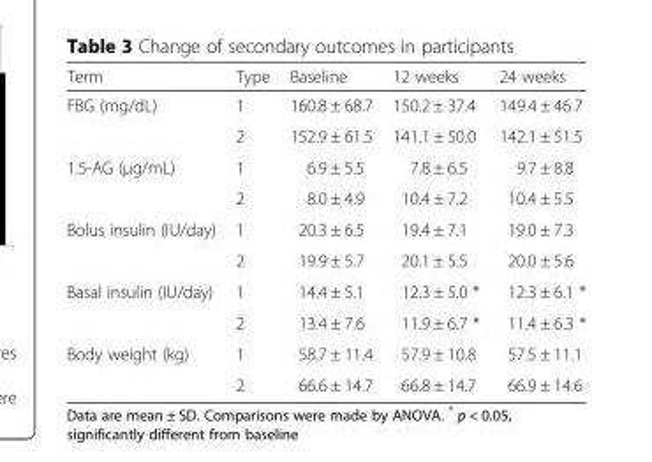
<table><thead><tr><td>Term</td><td>Type</td><td>Baseline</td><td>12 weeks</td><td>24 weeks</td></tr></thead><tbody><tr><td rowspan="2">FBG (mg/dL)</td><td>1</td><td>160.8 ± 68.7</td><td>150.2 ± 37.4</td><td>149.4 ± 46.7</td></tr><tr><td>2</td><td>152.9 ± 61.5</td><td>141.1 ± 50.0</td><td>142.1 ± 51.5</td></tr><tr><td rowspan="2">1.5-AG (μg/mL)</td><td>1</td><td>6.9 ± 5.5</td><td>7.8 ± 6.5</td><td>9.7 ± 8.8</td></tr><tr><td>2</td><td>8.0 ± 4.9</td><td>10.4 ± 7.2</td><td>10.4 ± 5.5</td></tr><tr><td rowspan="2">Bolus insulin (IU/day)</td><td>1</td><td>20.3 ± 6.5</td><td>19.4 ± 7.1</td><td>19.0 ± 7.3</td></tr><tr><td>2</td><td>19.9 ± 5.7</td><td>20.1 ± 5.5</td><td>20.0 ± 5.6</td></tr><tr><td rowspan="2">Basal insulin (IU/day)</td><td>1</td><td>14.4 ± 5.1</td><td>12.3 ± 5.0 *</td><td>12.3 ± 6.1 *</td></tr><tr><td>2</td><td>13.4 ± 7.6</td><td>11.9 ± 6.7 *</td><td>11.4 ± 6.3 *</td></tr><tr><td rowspan="2">Body weight (kg)</td><td>1</td><td>58.7 ± 11.4</td><td>57.9 ± 10.8</td><td>57.5 ± 11.1</td></tr><tr><td>2</td><td>66.6 ± 14.7</td><td>66.8 ± 14.7</td><td>66.9 ± 14.6</td></tr></tbody></table>